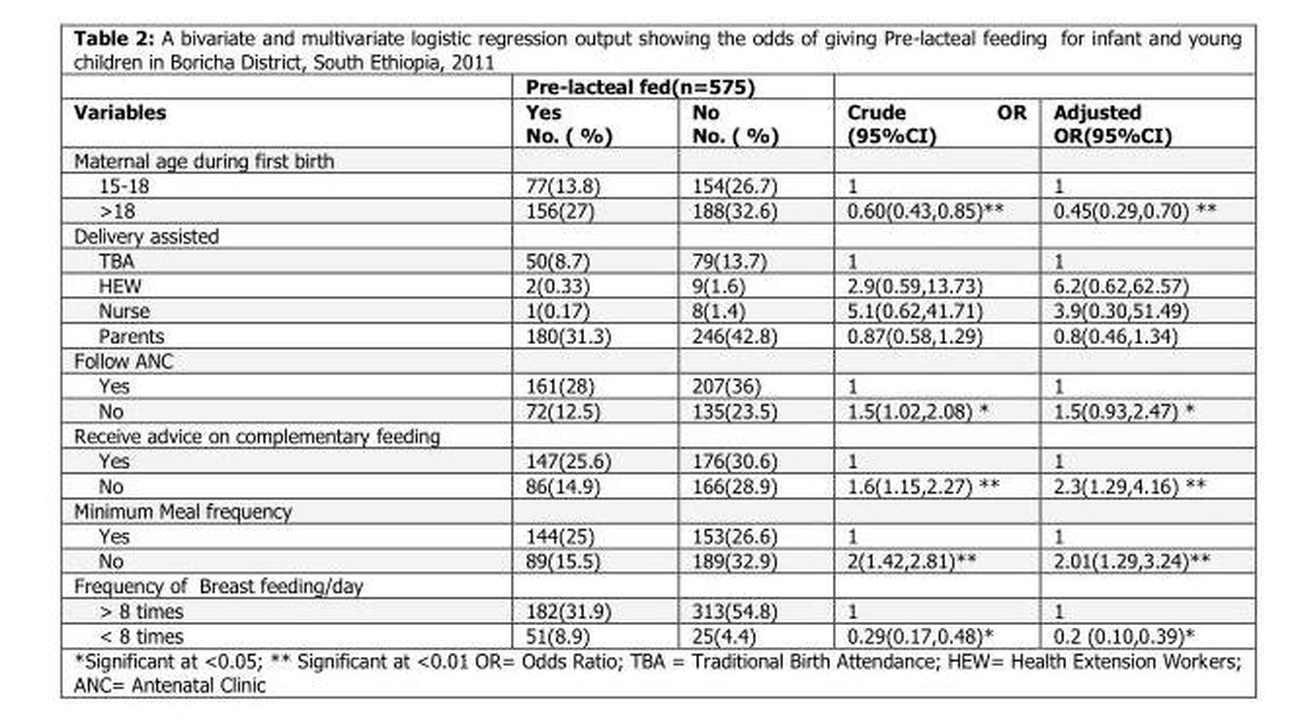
<table><thead><tr><td rowspan="2">Variables</td><td colspan="2">Pre-lacteal fed(n=575)</td><td rowspan="2">Crude OR (95%CI)</td><td rowspan="2">Adjusted OR(95%CI)</td></tr><tr><td>Yes No. ( %)</td><td>No No. ( %)</td></tr></thead><tbody><tr><td colspan="5">Maternal age during first birth</td></tr><tr><td>15-18</td><td>77(13.8)</td><td>154(26.7)</td><td>1</td><td>1</td></tr><tr><td>&gt;18</td><td>156(27)</td><td>188(32.6)</td><td>0.60(0.43,0.85)**</td><td>0.45(0.29,0.70) **</td></tr><tr><td colspan="5">Delivery assisted</td></tr><tr><td>TBA</td><td>50(8.7)</td><td>79(13.7)</td><td>1</td><td>1</td></tr><tr><td>HEW</td><td>2(0.33)</td><td>9(1.6)</td><td>2.9(0.59,13.73)</td><td>6.2(0.62,62.57)</td></tr><tr><td>Nurse</td><td>1(0.17)</td><td>8(1.4)</td><td>5.1(0.62,41.71)</td><td>3.9(0.30,51.49)</td></tr><tr><td>Parents</td><td>180(31.3)</td><td>246(42.8)</td><td>0.87(0.58,1.29)</td><td>0.8(0.46,1.34)</td></tr><tr><td colspan="5">Follow ANC</td></tr><tr><td>Yes</td><td>161(28)</td><td>207(36)</td><td>1</td><td>1</td></tr><tr><td>No</td><td>72(12.5)</td><td>135(23.5)</td><td>1.5(1.02,2.08) *</td><td>1.5(0.93,2.47) *</td></tr><tr><td colspan="5">Receive advice on complementary feeding</td></tr><tr><td>Yes</td><td>147(25.6)</td><td>176(30.6)</td><td>1</td><td>1</td></tr><tr><td>No</td><td>86(14.9)</td><td>166(28.9)</td><td>1.6(1.15,2.27) **</td><td>2.3(1.29,4.16) **</td></tr><tr><td colspan="5">Minimum Meal frequency</td></tr><tr><td>Yes</td><td>144(25)</td><td>153(26.6)</td><td>1</td><td>1</td></tr><tr><td>No</td><td>89(15.5)</td><td>189(32.9)</td><td>2(1.42,2.81)**</td><td>2.01(1.29,3.24)**</td></tr><tr><td colspan="5">Frequency of Breast feeding/day</td></tr><tr><td>&gt; 8 times</td><td>182(31.9)</td><td>313(54.8)</td><td>1</td><td>1</td></tr><tr><td>&lt; 8 times</td><td>51(8.9)</td><td>25(4.4)</td><td>0.29(0.17,0.48)*</td><td>0.2 (0.10,0.39)*</td></tr></tbody></table>